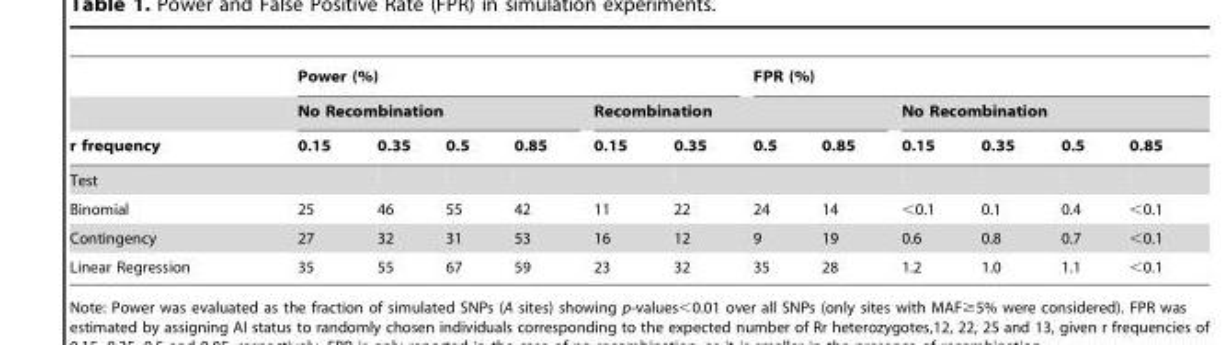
<table><thead><tr><td rowspan="3">r frequency</td><td colspan="6">Power (%)</td><td colspan="6">FPR (%)</td></tr><tr><td colspan="4">No Recombination</td><td colspan="4">Recombination</td><td colspan="4">No Recombination</td></tr><tr><td>0.15</td><td>0.35</td><td>0.5</td><td>0.85</td><td>0.15</td><td>0.35</td><td>0.5</td><td>0.85</td><td>0.15</td><td>0.35</td><td>0.5</td><td>0.85</td></tr></thead><tbody><tr><td colspan="13">Test</td></tr><tr><td>Binomial</td><td>25</td><td>46</td><td>55</td><td>42</td><td>11</td><td>22</td><td>24</td><td>14</td><td>&lt;0.1</td><td>0.1</td><td>0.4</td><td>&lt;0.1</td></tr><tr><td>Contingency</td><td>27</td><td>32</td><td>31</td><td>53</td><td>16</td><td>12</td><td>9</td><td>19</td><td>0.6</td><td>0.8</td><td>0.7</td><td>&lt;0.1</td></tr><tr><td>Linear Regression</td><td>35</td><td>55</td><td>67</td><td>59</td><td>23</td><td>32</td><td>35</td><td>28</td><td>1.2</td><td>1.0</td><td>1.1</td><td>&lt;0.1</td></tr></tbody></table>